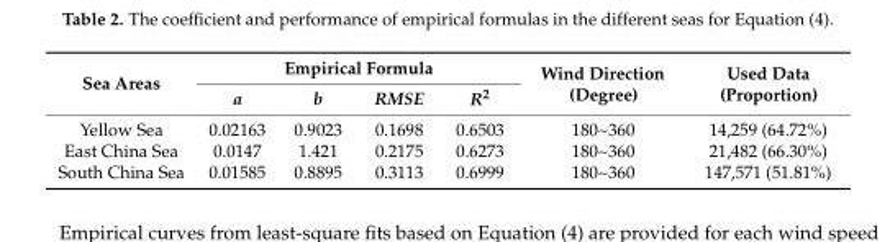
<table><thead><tr><td rowspan="2">Sea Areas</td><td colspan="4">Empirical Formula</td><td rowspan="2">Wind Direction (Degree)</td><td rowspan="2">Used Data (Proportion)</td></tr><tr><td>a</td><td>b</td><td>RMSE</td><td>R<sup>2</sup></td></tr></thead><tbody><tr><td>Yellow Sea</td><td>0.02163</td><td>0.9023</td><td>0.1698</td><td>0.6503</td><td>180~360</td><td>14,259 (64.72%)</td></tr><tr><td>East China Sea</td><td>0.0147</td><td>1.421</td><td>0.2175</td><td>0.6273</td><td>180~360</td><td>21,482 (66.30%)</td></tr><tr><td>South China Sea</td><td>0.01585</td><td>0.8895</td><td>0.3113</td><td>0.6999</td><td>180~360</td><td>147,571 (51.81%)</td></tr></tbody></table>